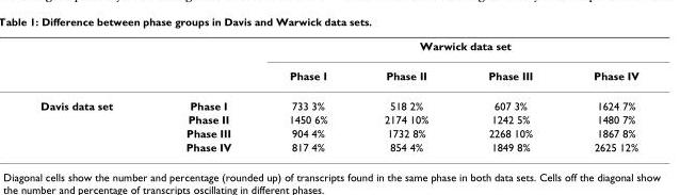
<table><thead><tr><td rowspan="2"></td><td rowspan="2"></td><td colspan="4">Warwick data set</td></tr><tr><td>Phase I</td><td>Phase II</td><td>Phase III</td><td>Phase IV</td></tr></thead><tbody><tr><td rowspan="4">Davis data set</td><td>Phase I</td><td>733 3%</td><td>518 2%</td><td>607 3%</td><td>1624 7%</td></tr><tr><td>Phase II</td><td>1450 6%</td><td>2174 10%</td><td>1242 5%</td><td>1480 7%</td></tr><tr><td>Phase III</td><td>904 4%</td><td>1732 8%</td><td>2268 10%</td><td>1867 8%</td></tr><tr><td>Phase IV</td><td>817 4%</td><td>854 4%</td><td>1849 8%</td><td>2625 12%</td></tr></tbody></table>